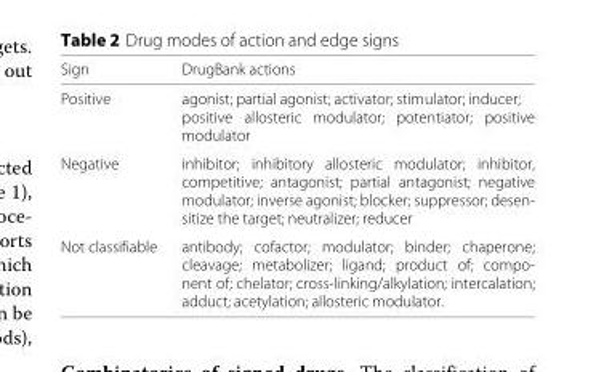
<table><thead><tr><td>Sign</td><td>DrugBank actions</td></tr></thead><tbody><tr><td rowspan="2">Positive</td><td>agonist; partial agonist; activator; stimulator; inducer;</td></tr><tr><td>positive allosteric modulator; potentiator; positive modulator</td></tr><tr><td>Negative</td><td>inhibitor; inhibitory allosteric modulator; inhibitor, competitive; antagonist; partial antagonist; negative modulator; inverse agonist; blocker; suppressor; desen- sitize the target; neutralizer; reducer</td></tr><tr><td>Not classifiable</td><td>antibody; cofactor; modulator; binder; chaperone; cleavage; metabolizer; ligand; product of; compo- nent of; chelator; cross-linking/alkylation; intercalation; adduct; acetylation; allosteric modulator.</td></tr></tbody></table>